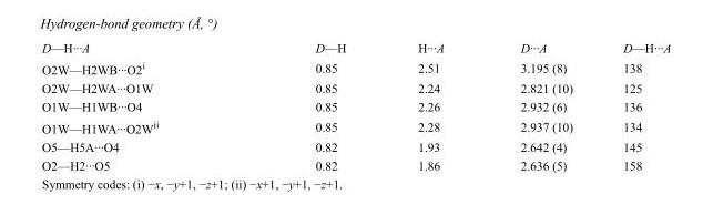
<table><tbody><tr><td>D—H···A</td><td>D—H</td><td>H···A</td><td>D···A</td><td>D—H···A</td></tr><tr><td>O2W—H2WB···O2<sup>i</sup></td><td>0.85</td><td>2.51</td><td>3.195 (8)</td><td>138</td></tr><tr><td>O2W—H2WA···O1W</td><td>0.85</td><td>2.24</td><td>2.821 (10)</td><td>125</td></tr><tr><td>O1W—H1WB···O4</td><td>0.85</td><td>2.26</td><td>2.932 (6)</td><td>136</td></tr><tr><td>O1W—H1WA···O2W<sup>ii</sup></td><td>0.85</td><td>2.28</td><td>2.937 (10)</td><td>134</td></tr><tr><td>O5—H5A···O4</td><td>0.82</td><td>1.93</td><td>2.642 (4)</td><td>145</td></tr><tr><td>O2—H2···O5</td><td>0.82</td><td>1.86</td><td>2.636 (5)</td><td>158</td></tr></tbody></table>